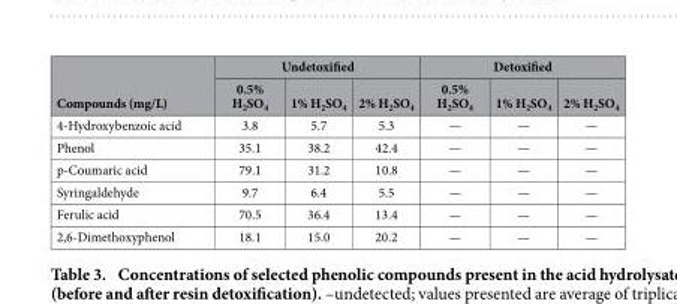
<table><thead><tr><td rowspan="2">Compounds (mg/L)</td><td colspan="3">Undetoxified</td><td colspan="3">Detoxified</td></tr><tr><td>0.5% H<sub>2</sub>SO<sub>4</sub></td><td>1% H<sub>2</sub>SO<sub>4</sub></td><td>2% H<sub>2</sub>SO<sub>4</sub></td><td>0.5% H<sub>2</sub>SO<sub>4</sub></td><td>1% H<sub>2</sub>SO<sub>4</sub></td><td>2% H<sub>2</sub>SO<sub>4</sub></td></tr></thead><tbody><tr><td>4-Hydroxybenzoic acid</td><td>3.8</td><td>5.7</td><td>5.3</td><td>—</td><td>—</td><td>—</td></tr><tr><td>Phenol</td><td>35.1</td><td>38.2</td><td>42.4</td><td>—</td><td>—</td><td>—</td></tr><tr><td>p-Coumaric acid</td><td>79.1</td><td>31.2</td><td>10.8</td><td>—</td><td>—</td><td>—</td></tr><tr><td>Syringaldehyde</td><td>9.7</td><td>6.4</td><td>5.5</td><td>—</td><td>—</td><td>—</td></tr><tr><td>Ferulic acid</td><td>70.5</td><td>36.4</td><td>13.4</td><td>—</td><td>—</td><td>—</td></tr><tr><td>2,6-Dimethoxyphenol</td><td>18.1</td><td>15.0</td><td>20.2</td><td>—</td><td>—</td><td>—</td></tr></tbody></table>